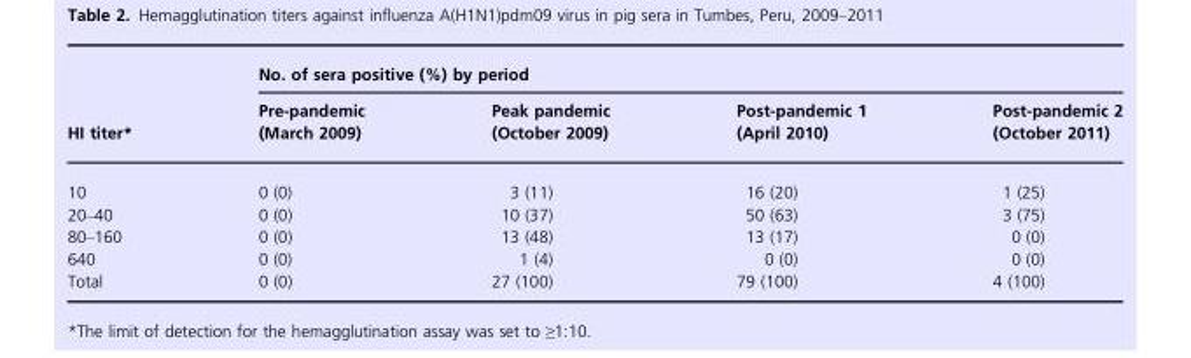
<table><thead><tr><td rowspan="2">HI titer*</td><td colspan="4">No. of sera positive (%) by period</td></tr><tr><td>Pre-pandemic (March 2009)</td><td>Peak pandemic (October 2009)</td><td>Post-pandemic 1 (April 2010)</td><td>Post-pandemic 2 (October 2011)</td></tr></thead><tbody><tr><td>10</td><td>0 (0)</td><td>3 (11)</td><td>16 (20)</td><td>1 (25)</td></tr><tr><td>20–40</td><td>0 (0)</td><td>10 (37)</td><td>50 (63)</td><td>3 (75)</td></tr><tr><td>80–160</td><td>0 (0)</td><td>13 (48)</td><td>13 (17)</td><td>0 (0)</td></tr><tr><td>640</td><td>0 (0)</td><td>1 (4)</td><td>0 (0)</td><td>0 (0)</td></tr><tr><td>Total</td><td>0 (0)</td><td>27 (100)</td><td>79 (100)</td><td>4 (100)</td></tr></tbody></table>